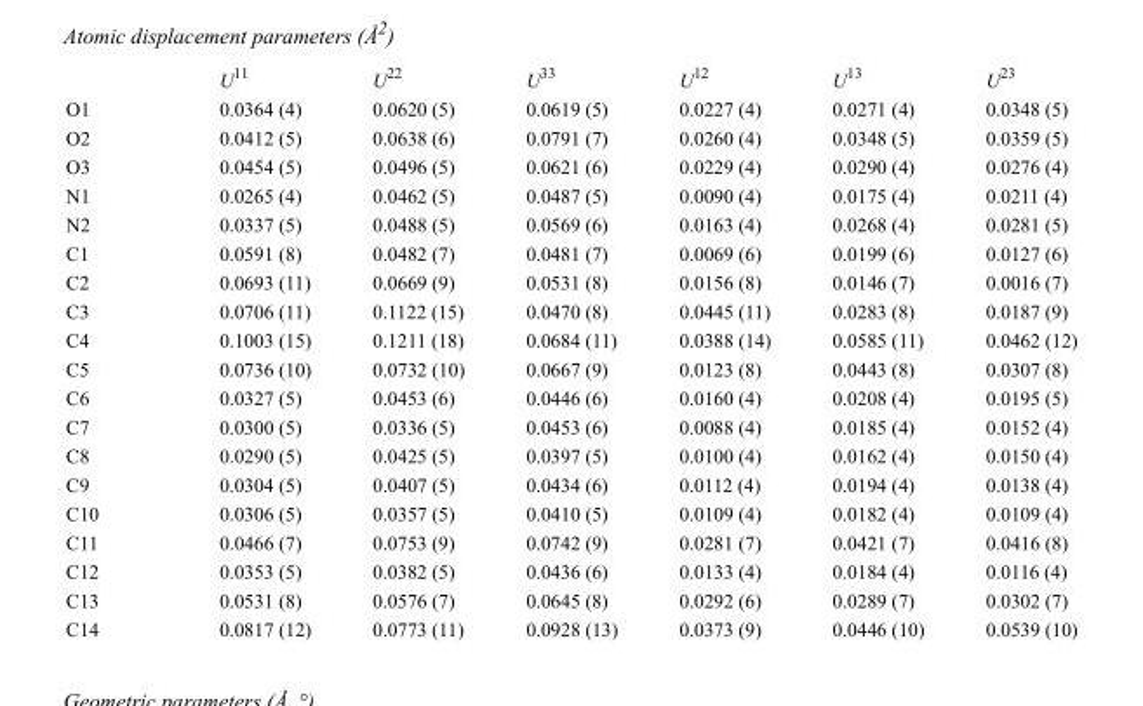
<table><thead><tr><td></td><td>U<sup>11</sup></td><td>U<sup>22</sup></td><td>U<sup>33</sup></td><td>U<sup>12</sup></td><td>U<sup>13</sup></td><td>U<sup>23</sup></td></tr></thead><tbody><tr><td>O1</td><td>0.0364 (4)</td><td>0.0620 (5)</td><td>0.0619 (5)</td><td>0.0227 (4)</td><td>0.0271 (4)</td><td>0.0348 (5)</td></tr><tr><td>O2</td><td>0.0412 (5)</td><td>0.0638 (6)</td><td>0.0791 (7)</td><td>0.0260 (4)</td><td>0.0348 (5)</td><td>0.0359 (5)</td></tr><tr><td>O3</td><td>0.0454 (5)</td><td>0.0496 (5)</td><td>0.0621 (6)</td><td>0.0229 (4)</td><td>0.0290 (4)</td><td>0.0276 (4)</td></tr><tr><td>N1</td><td>0.0265 (4)</td><td>0.0462 (5)</td><td>0.0487 (5)</td><td>0.0090 (4)</td><td>0.0175 (4)</td><td>0.0211 (4)</td></tr><tr><td>N2</td><td>0.0337 (5)</td><td>0.0488 (5)</td><td>0.0569 (6)</td><td>0.0163 (4)</td><td>0.0268 (4)</td><td>0.0281 (5)</td></tr><tr><td>C1</td><td>0.0591 (8)</td><td>0.0482 (7)</td><td>0.0481 (7)</td><td>0.0069 (6)</td><td>0.0199 (6)</td><td>0.0127 (6)</td></tr><tr><td>C2</td><td>0.0693 (11)</td><td>0.0669 (9)</td><td>0.0531 (8)</td><td>0.0156 (8)</td><td>0.0146 (7)</td><td>0.0016 (7)</td></tr><tr><td>C3</td><td>0.0706 (11)</td><td>0.1122 (15)</td><td>0.0470 (8)</td><td>0.0445 (11)</td><td>0.0283 (8)</td><td>0.0187 (9)</td></tr><tr><td>C4</td><td>0.1003 (15)</td><td>0.1211 (18)</td><td>0.0684 (11)</td><td>0.0388 (14)</td><td>0.0585 (11)</td><td>0.0462 (12)</td></tr><tr><td>C5</td><td>0.0736 (10)</td><td>0.0732 (10)</td><td>0.0667 (9)</td><td>0.0123 (8)</td><td>0.0443 (8)</td><td>0.0307 (8)</td></tr><tr><td>C6</td><td>0.0327 (5)</td><td>0.0453 (6)</td><td>0.0446 (6)</td><td>0.0160 (4)</td><td>0.0208 (4)</td><td>0.0195 (5)</td></tr><tr><td>C7</td><td>0.0300 (5)</td><td>0.0336 (5)</td><td>0.0453 (6)</td><td>0.0088 (4)</td><td>0.0185 (4)</td><td>0.0152 (4)</td></tr><tr><td>C8</td><td>0.0290 (5)</td><td>0.0425 (5)</td><td>0.0397 (5)</td><td>0.0100 (4)</td><td>0.0162 (4)</td><td>0.0150 (4)</td></tr><tr><td>C9</td><td>0.0304 (5)</td><td>0.0407 (5)</td><td>0.0434 (6)</td><td>0.0112 (4)</td><td>0.0194 (4)</td><td>0.0138 (4)</td></tr><tr><td>C10</td><td>0.0306 (5)</td><td>0.0357 (5)</td><td>0.0410 (5)</td><td>0.0109 (4)</td><td>0.0182 (4)</td><td>0.0109 (4)</td></tr><tr><td>C11</td><td>0.0466 (7)</td><td>0.0753 (9)</td><td>0.0742 (9)</td><td>0.0281 (7)</td><td>0.0421 (7)</td><td>0.0416 (8)</td></tr><tr><td>C12</td><td>0.0353 (5)</td><td>0.0382 (5)</td><td>0.0436 (6)</td><td>0.0133 (4)</td><td>0.0184 (4)</td><td>0.0116 (4)</td></tr><tr><td>C13</td><td>0.0531 (8)</td><td>0.0576 (7)</td><td>0.0645 (8)</td><td>0.0292 (6)</td><td>0.0289 (7)</td><td>0.0302 (7)</td></tr><tr><td>C14</td><td>0.0817 (12)</td><td>0.0773 (11)</td><td>0.0928 (13)</td><td>0.0373 (9)</td><td>0.0446 (10)</td><td>0.0539 (10)</td></tr></tbody></table>